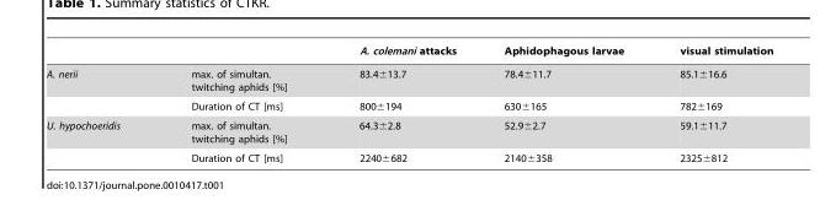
<table><thead><tr><td></td><td></td><td>A. colemani attacks</td><td>Aphidophagous larvae</td><td>visual stimulation</td></tr></thead><tbody><tr><td rowspan="2">A. nerii</td><td>max. of simultan. twitching aphids [%]</td><td>83.4±13.7</td><td>78.4±11.7</td><td>85.1±16.6</td></tr><tr><td>Duration of CT [ms]</td><td>800±194</td><td>630±165</td><td>782±169</td></tr><tr><td rowspan="2">U. hypochoeridis</td><td>max. of simultan. twitching aphids [%]</td><td>64.3±2.8</td><td>52.9±2.7</td><td>59.1±11.7</td></tr><tr><td>Duration of CT [ms]</td><td>2240±682</td><td>2140±358</td><td>2325±812</td></tr></tbody></table>